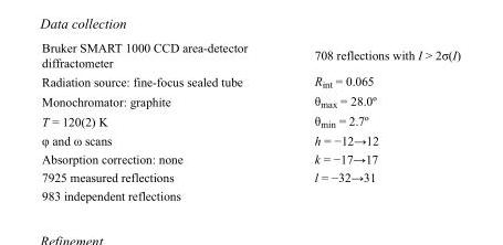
<table><tbody><tr><td>Bruker SMART 1000 CCD area-detector diffractometer</td><td>708 reflections with I &gt; 2σ(I)</td></tr><tr><td>Radiation source: fine-focus sealed tube</td><td>R<sub>int</sub> = 0.065</td></tr><tr><td>Monochromator: graphite</td><td>θ<sub>max</sub> = 28.0º</td></tr><tr><td>T = 120(2) K</td><td>θ<sub>min</sub> = 2.7º</td></tr><tr><td>φ and ω scans</td><td>h = −12→12</td></tr><tr><td>Absorption correction: none</td><td>k = −17→17</td></tr><tr><td>7925 measured reflections</td><td>l = −32→31</td></tr><tr><td>983 independent reflections</td><td></td></tr></tbody></table>